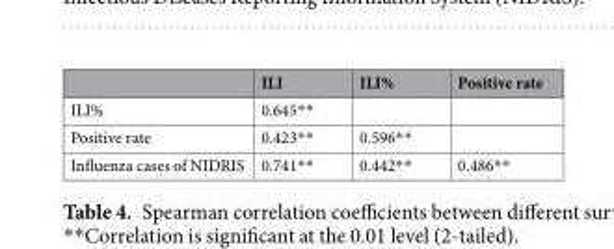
<table><thead><tr><td></td><td>ILI</td><td>ILI%</td><td>Positive rate</td></tr></thead><tbody><tr><td>ILI%</td><td>0.645**</td><td></td><td></td></tr><tr><td>Positive rate</td><td>0.423**</td><td>0.596**</td><td></td></tr><tr><td>Influenza cases of NIDRIS</td><td>0.741**</td><td>0.442**</td><td>0.486**</td></tr></tbody></table>